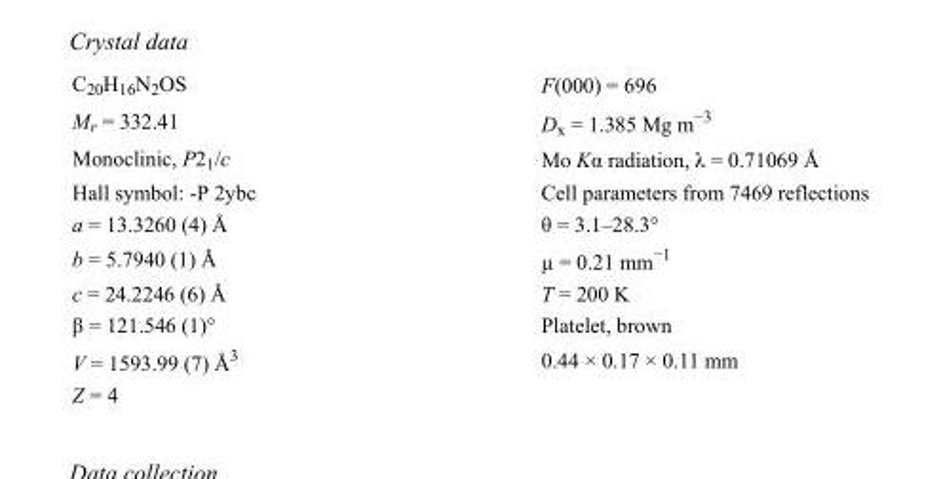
<table><tbody><tr><td>C<sub>20</sub>H<sub>16</sub>N<sub>2</sub>OS</td><td>F(000) = 696</td></tr><tr><td>M<sub>r</sub> = 332.41</td><td>D<sub>x</sub> = 1.385 Mg m<sup>−3</sup></td></tr><tr><td>Monoclinic, P2<sub>1</sub>/c</td><td>Mo Kα radiation, λ = 0.71069 Å</td></tr><tr><td>Hall symbol: -P 2ybc</td><td>Cell parameters from 7469 reflections</td></tr><tr><td>a = 13.3260 (4) Å</td><td>θ = 3.1–28.3°</td></tr><tr><td>b = 5.7940 (1) Å</td><td>µ = 0.21 mm<sup>−1</sup></td></tr><tr><td>c = 24.2246 (6) Å</td><td>T = 200 K</td></tr><tr><td>β = 121.546 (1)°</td><td>Platelet, brown</td></tr><tr><td>V = 1593.99 (7) Å<sup>3</sup></td><td>0.44 × 0.17 × 0.11 mm</td></tr><tr><td>Z = 4</td><td></td></tr></tbody></table>